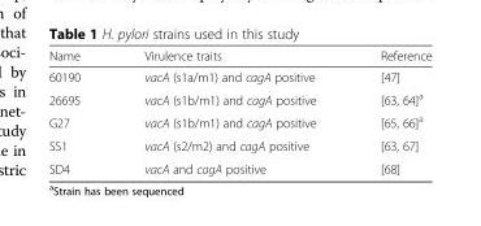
<table><thead><tr><td>Name</td><td>Virulence traits</td><td>Reference</td></tr></thead><tbody><tr><td>60190</td><td>vacA (s1a/m1) and cagA positive</td><td>[47]</td></tr><tr><td>26695</td><td>vacA (s1b/m1) and cagA positive</td><td>[63, 64]<sup>a</sup></td></tr><tr><td>G27</td><td>vacA (s1b/m1) and cagA positive</td><td>[65, 66]<sup>a</sup></td></tr><tr><td>SS1</td><td>vacA (s2/m2) and cagA positive</td><td>[63, 67]</td></tr><tr><td>SD4</td><td>vacA and cagA positive</td><td>[68]</td></tr></tbody></table>